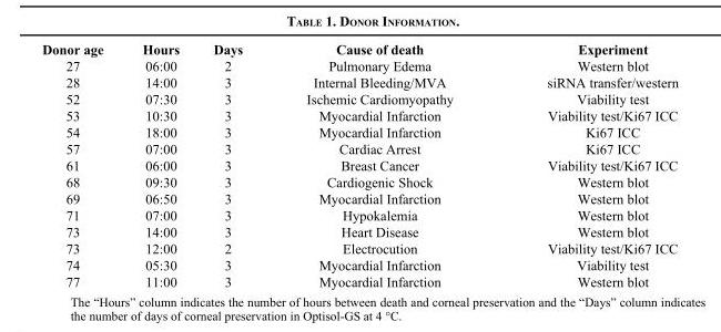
<table><thead><tr><td>Donor age</td><td>Hours</td><td>Days</td><td>Cause of death</td><td>Experiment</td></tr></thead><tbody><tr><td>27</td><td>06:00</td><td>2</td><td>Pulmonary Edema</td><td>Western blot</td></tr><tr><td>28</td><td>14:00</td><td>3</td><td>Internal Bleeding/MVA</td><td>siRNA transfer/western</td></tr><tr><td>52</td><td>07:30</td><td>3</td><td>Ischemic Cardiomyopathy</td><td>Viability test</td></tr><tr><td>53</td><td>10:30</td><td>3</td><td>Myocardial Infarction</td><td>Viability test/Ki67 ICC</td></tr><tr><td>54</td><td>18:00</td><td>3</td><td>Myocardial Infarction</td><td>Ki67 ICC</td></tr><tr><td>57</td><td>07:00</td><td>3</td><td>Cardiac Arrest</td><td>Ki67 ICC</td></tr><tr><td>61</td><td>06:00</td><td>3</td><td>Breast Cancer</td><td>Viability test/Ki67 ICC</td></tr><tr><td>68</td><td>09:30</td><td>3</td><td>Cardiogenic Shock</td><td>Western blot</td></tr><tr><td>69</td><td>06:50</td><td>3</td><td>Myocardial Infarction</td><td>Western blot</td></tr><tr><td>71</td><td>07:00</td><td>3</td><td>Hypokalemia</td><td>Western blot</td></tr><tr><td>73</td><td>14:00</td><td>3</td><td>Heart Disease</td><td>Western blot</td></tr><tr><td>73</td><td>12:00</td><td>2</td><td>Electrocution</td><td>Viability test/Ki67 ICC</td></tr><tr><td>74</td><td>05:30</td><td>3</td><td>Myocardial Infarction</td><td>Viability test</td></tr><tr><td>77</td><td>11:00</td><td>3</td><td>Myocardial Infarction</td><td>Western blot</td></tr></tbody></table>